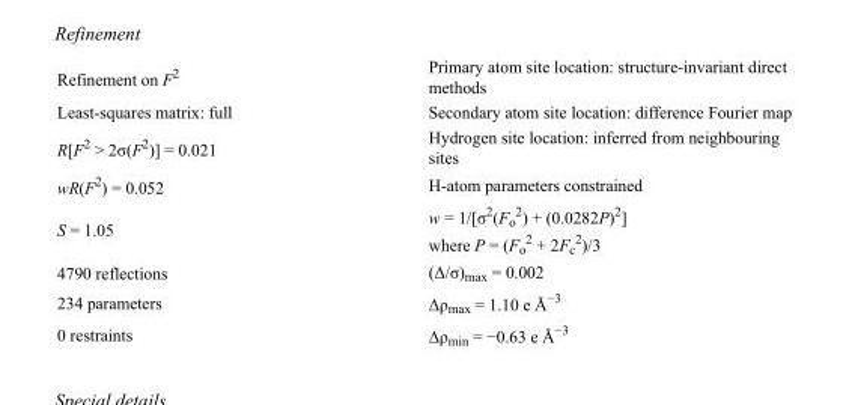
<table><tbody><tr><td>Refinement on F<sup>2</sup></td><td>Primary atom site location: structure-invariant direct methods</td></tr><tr><td>Least-squares matrix: full</td><td>Secondary atom site location: difference Fourier map</td></tr><tr><td>R[F<sup>2</sup> &gt; 2σ(F<sup>2</sup>)] = 0.021</td><td>Hydrogen site location: inferred from neighbouring sites</td></tr><tr><td>wR(F<sup>2</sup>) = 0.052</td><td>H-atom parameters constrained</td></tr><tr><td>S = 1.05</td><td>w = 1/[σ<sup>2</sup>(F<sub>o</sub> <sup>2</sup>) + (0.0282P)<sup>2</sup>] where P = (F<sub>o</sub> <sup>2</sup> + 2F<sub>c</sub> <sup>2</sup>)/3</td></tr><tr><td>4790 reflections</td><td>(Δ/σ)<sub>max</sub> = 0.002</td></tr><tr><td>234 parameters</td><td>Δρ<sub>max</sub> = 1.10 e Å<sup>−3</sup></td></tr><tr><td>0 restraints</td><td>Δρ<sub>min</sub> = −0.63 e Å<sup>−3</sup></td></tr></tbody></table>